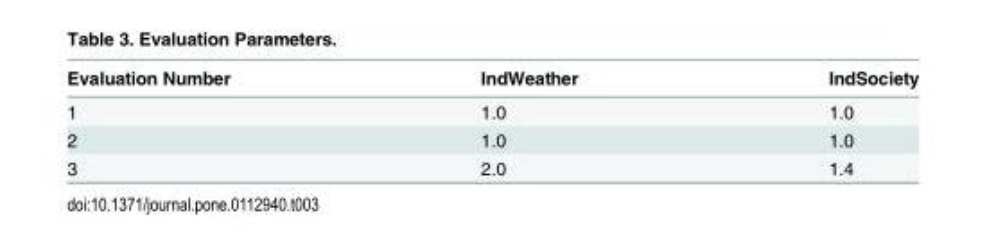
<table><thead><tr><td>Evaluation Number</td><td>IndWeather</td><td>IndSociety</td></tr></thead><tbody><tr><td>1</td><td>1.0</td><td>1.0</td></tr><tr><td>2</td><td>1.0</td><td>1.0</td></tr><tr><td>3</td><td>2.0</td><td>1.4</td></tr></tbody></table>